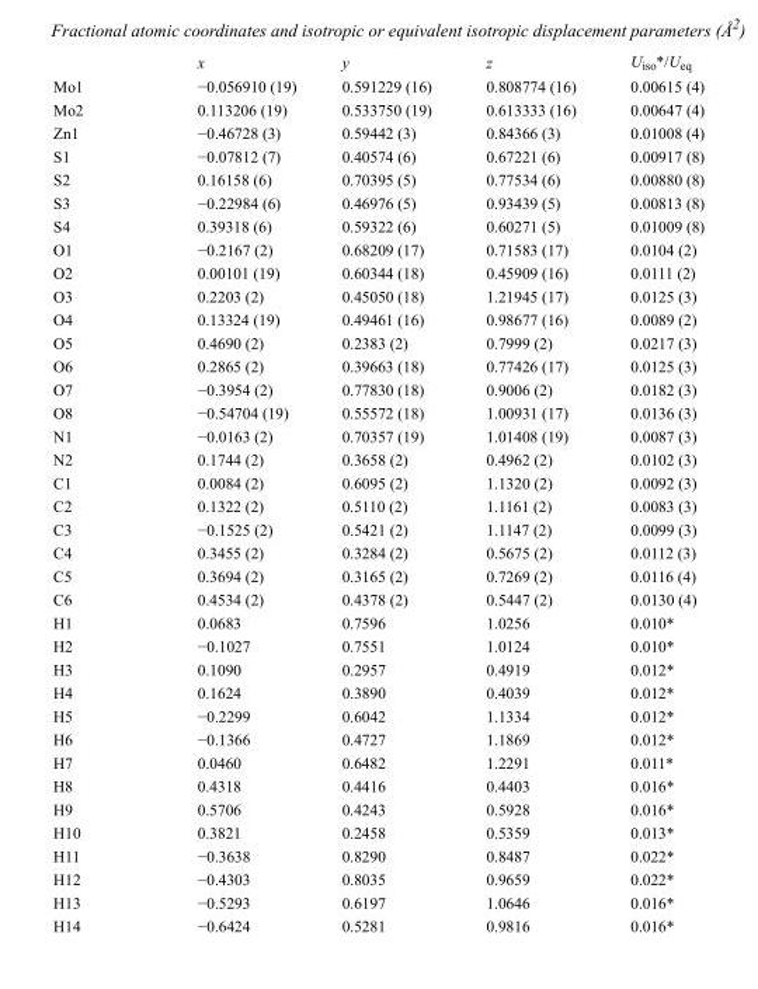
<table><thead><tr><td></td><td>x</td><td>y</td><td>z</td><td>U<sub>iso</sub>*/U<sub>eq</sub></td></tr></thead><tbody><tr><td>Mo1</td><td>−0.056910 (19)</td><td>0.591229 (16)</td><td>0.808774 (16)</td><td>0.00615 (4)</td></tr><tr><td>Mo2</td><td>0.113206 (19)</td><td>0.533750 (19)</td><td>0.613333 (16)</td><td>0.00647 (4)</td></tr><tr><td>Zn1</td><td>−0.46728 (3)</td><td>0.59442 (3)</td><td>0.84366 (3)</td><td>0.01008 (4)</td></tr><tr><td>S1</td><td>−0.07812 (7)</td><td>0.40574 (6)</td><td>0.67221 (6)</td><td>0.00917 (8)</td></tr><tr><td>S2</td><td>0.16158 (6)</td><td>0.70395 (5)</td><td>0.77534 (6)</td><td>0.00880 (8)</td></tr><tr><td>S3</td><td>−0.22984 (6)</td><td>0.46976 (5)</td><td>0.93439 (5)</td><td>0.00813 (8)</td></tr><tr><td>S4</td><td>0.39318 (6)</td><td>0.59322 (6)</td><td>0.60271 (5)</td><td>0.01009 (8)</td></tr><tr><td>O1</td><td>−0.2167 (2)</td><td>0.68209 (17)</td><td>0.71583 (17)</td><td>0.0104 (2)</td></tr><tr><td>O2</td><td>0.00101 (19)</td><td>0.60344 (18)</td><td>0.45909 (16)</td><td>0.0111 (2)</td></tr><tr><td>O3</td><td>0.2203 (2)</td><td>0.45050 (18)</td><td>1.21945 (17)</td><td>0.0125 (3)</td></tr><tr><td>O4</td><td>0.13324 (19)</td><td>0.49461 (16)</td><td>0.98677 (16)</td><td>0.0089 (2)</td></tr><tr><td>O5</td><td>0.4690 (2)</td><td>0.2383 (2)</td><td>0.7999 (2)</td><td>0.0217 (3)</td></tr><tr><td>O6</td><td>0.2865 (2)</td><td>0.39663 (18)</td><td>0.77426 (17)</td><td>0.0125 (3)</td></tr><tr><td>O7</td><td>−0.3954 (2)</td><td>0.77830 (18)</td><td>0.9006 (2)</td><td>0.0182 (3)</td></tr><tr><td>O8</td><td>−0.54704 (19)</td><td>0.55572 (18)</td><td>1.00931 (17)</td><td>0.0136 (3)</td></tr><tr><td>N1</td><td>−0.0163 (2)</td><td>0.70357 (19)</td><td>1.01408 (19)</td><td>0.0087 (3)</td></tr><tr><td>N2</td><td>0.1744 (2)</td><td>0.3658 (2)</td><td>0.4962 (2)</td><td>0.0102 (3)</td></tr><tr><td>C1</td><td>0.0084 (2)</td><td>0.6095 (2)</td><td>1.1320 (2)</td><td>0.0092 (3)</td></tr><tr><td>C2</td><td>0.1322 (2)</td><td>0.5110 (2)</td><td>1.1161 (2)</td><td>0.0083 (3)</td></tr><tr><td>C3</td><td>−0.1525 (2)</td><td>0.5421 (2)</td><td>1.1147 (2)</td><td>0.0099 (3)</td></tr><tr><td>C4</td><td>0.3455 (2)</td><td>0.3284 (2)</td><td>0.5675 (2)</td><td>0.0112 (3)</td></tr><tr><td>C5</td><td>0.3694 (2)</td><td>0.3165 (2)</td><td>0.7269 (2)</td><td>0.0116 (4)</td></tr><tr><td>C6</td><td>0.4534 (2)</td><td>0.4378 (2)</td><td>0.5447 (2)</td><td>0.0130 (4)</td></tr><tr><td>H1</td><td>0.0683</td><td>0.7596</td><td>1.0256</td><td>0.010*</td></tr><tr><td>H2</td><td>−0.1027</td><td>0.7551</td><td>1.0124</td><td>0.010*</td></tr><tr><td>H3</td><td>0.1090</td><td>0.2957</td><td>0.4919</td><td>0.012*</td></tr><tr><td>H4</td><td>0.1624</td><td>0.3890</td><td>0.4039</td><td>0.012*</td></tr><tr><td>H5</td><td>−0.2299</td><td>0.6042</td><td>1.1334</td><td>0.012*</td></tr><tr><td>H6</td><td>−0.1366</td><td>0.4727</td><td>1.1869</td><td>0.012*</td></tr><tr><td>H7</td><td>0.0460</td><td>0.6482</td><td>1.2291</td><td>0.011*</td></tr><tr><td>H8</td><td>0.4318</td><td>0.4416</td><td>0.4403</td><td>0.016*</td></tr><tr><td>H9</td><td>0.5706</td><td>0.4243</td><td>0.5928</td><td>0.016*</td></tr><tr><td>H10</td><td>0.3821</td><td>0.2458</td><td>0.5359</td><td>0.013*</td></tr><tr><td>H11</td><td>−0.3638</td><td>0.8290</td><td>0.8487</td><td>0.022*</td></tr><tr><td>H12</td><td>−0.4303</td><td>0.8035</td><td>0.9659</td><td>0.022*</td></tr><tr><td>H13</td><td>−0.5293</td><td>0.6197</td><td>1.0646</td><td>0.016*</td></tr><tr><td>H14</td><td>−0.6424</td><td>0.5281</td><td>0.9816</td><td>0.016*</td></tr></tbody></table>